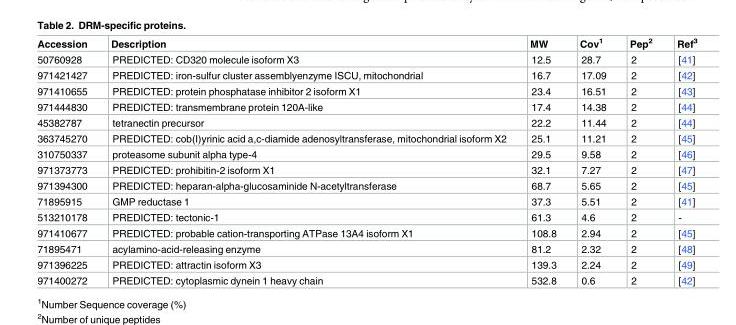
<table><thead><tr><td>Accession</td><td>Description</td><td>MW</td><td>Cov<sup>1</sup></td><td>Pep<sup>2</sup></td><td>Ref<sup>3</sup></td></tr></thead><tbody><tr><td>50760928</td><td>PREDICTED: CD320 molecule isoform X3</td><td>12.5</td><td>28.7</td><td>2</td><td>[41]</td></tr><tr><td>971421427</td><td>PREDICTED: iron-sulfur cluster assemblyenzyme ISCU, mitochondrial</td><td>16.7</td><td>17.09</td><td>2</td><td>[42]</td></tr><tr><td>971410655</td><td>PREDICTED: protein phosphatase inhibitor 2 isoform X1</td><td>23.4</td><td>16.51</td><td>2</td><td>[43]</td></tr><tr><td>971444830</td><td>PREDICTED: transmembrane protein 120A-like</td><td>17.4</td><td>14.38</td><td>2</td><td>[44]</td></tr><tr><td>45382787</td><td>tetranectin precursor</td><td>22.2</td><td>11.44</td><td>2</td><td>[44]</td></tr><tr><td>363745270</td><td>PREDICTED: cob(I)yrinic acid a,c-diamide adenosyltransferase, mitochondrial isoform X2</td><td>25.1</td><td>11.21</td><td>2</td><td>[45]</td></tr><tr><td>310750337</td><td>proteasome subunit alpha type-4</td><td>29.5</td><td>9.58</td><td>2</td><td>[46]</td></tr><tr><td>971373773</td><td>PREDICTED: prohibitin-2 isoform X1</td><td>32.1</td><td>7.27</td><td>2</td><td>[47]</td></tr><tr><td>971394300</td><td>PREDICTED: heparan-alpha-glucosaminide N-acetyltransferase</td><td>68.7</td><td>5.65</td><td>2</td><td>[45]</td></tr><tr><td>71895915</td><td>GMP reductase 1</td><td>37.3</td><td>5.51</td><td>2</td><td>[41]</td></tr><tr><td>513210178</td><td>PREDICTED: tectonic-1</td><td>61.3</td><td>4.6</td><td>2</td><td>-</td></tr><tr><td>971410677</td><td>PREDICTED: probable cation-transporting ATPase 13A4 isoform X1</td><td>108.8</td><td>2.94</td><td>2</td><td>[45]</td></tr><tr><td>71895471</td><td>acylamino-acid-releasing enzyme</td><td>81.2</td><td>2.32</td><td>2</td><td>[48]</td></tr><tr><td>971396225</td><td>PREDICTED: attractin isoform X3</td><td>139.3</td><td>2.24</td><td>2</td><td>[49]</td></tr><tr><td>971400272</td><td>PREDICTED: cytoplasmic dynein 1 heavy chain</td><td>532.8</td><td>0.6</td><td>2</td><td>[42]</td></tr></tbody></table>